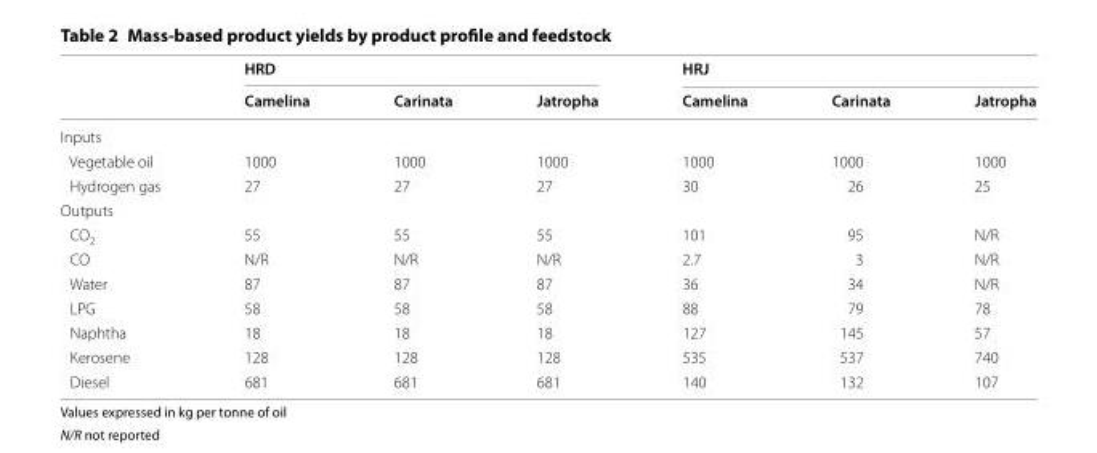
<table><thead><tr><td rowspan="2"></td><td colspan="3">HRD</td><td colspan="3">HRJ</td></tr><tr><td>Camelina</td><td>Carinata</td><td>Jatropha</td><td>Camelina</td><td>Carinata</td><td>Jatropha</td></tr></thead><tbody><tr><td colspan="7">Inputs</td></tr><tr><td>Vegetable oil</td><td>1000</td><td>1000</td><td>1000</td><td>1000</td><td>1000</td><td>1000</td></tr><tr><td>Hydrogen gas</td><td>27</td><td>27</td><td>27</td><td>30</td><td>26</td><td>25</td></tr><tr><td colspan="7">Outputs</td></tr><tr><td>CO<sub>2</sub></td><td>55</td><td>55</td><td>55</td><td>101</td><td>95</td><td>N/R</td></tr><tr><td>CO</td><td>N/R</td><td>N/R</td><td>N/R</td><td>2.7</td><td>3</td><td>N/R</td></tr><tr><td>Water</td><td>87</td><td>87</td><td>87</td><td>36</td><td>34</td><td>N/R</td></tr><tr><td>LPG</td><td>58</td><td>58</td><td>58</td><td>88</td><td>79</td><td>78</td></tr><tr><td>Naphtha</td><td>18</td><td>18</td><td>18</td><td>127</td><td>145</td><td>57</td></tr><tr><td>Kerosene</td><td>128</td><td>128</td><td>128</td><td>535</td><td>537</td><td>740</td></tr><tr><td>Diesel</td><td>681</td><td>681</td><td>681</td><td>140</td><td>132</td><td>107</td></tr></tbody></table>